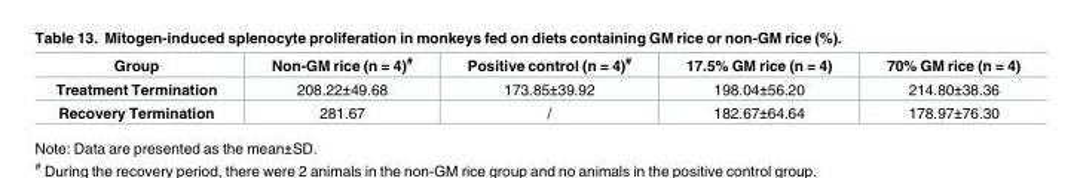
<table><thead><tr><td>Group</td><td>Non-GM rice (n = 4)<sup>#</sup></td><td>Positive control (n = 4)<sup>#</sup></td><td>17.5% GM rice (n = 4)</td><td>70% GM rice (n = 4)</td></tr></thead><tbody><tr><td>Treatment Termination</td><td>208.22±49.68</td><td>173.85±39.92</td><td>198.04±56.20</td><td>214.80±38.36</td></tr><tr><td>Recovery Termination</td><td>281.67</td><td>/</td><td>182.67±64.64</td><td>178.97±76.30</td></tr></tbody></table>